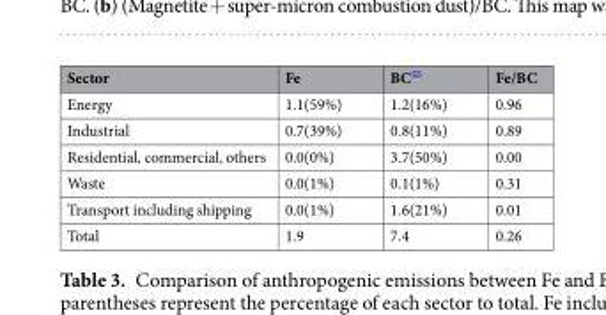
<table><thead><tr><td>Sector</td><td>Fe</td><td>BC<sup>55</sup></td><td>Fe/BC</td></tr></thead><tbody><tr><td>Energy</td><td>1.1(59%)</td><td>1.2(16%)</td><td>0.96</td></tr><tr><td>Industrial</td><td>0.7(39%)</td><td>0.8(11%)</td><td>0.89</td></tr><tr><td>Residential, commercial, others</td><td>0.0(0%)</td><td>3.7(50%)</td><td>0.00</td></tr><tr><td>Waste</td><td>0.0(1%)</td><td>0.1(1%)</td><td>0.31</td></tr><tr><td>Transport including shipping</td><td>0.0(1%)</td><td>1.6(21%)</td><td>0.01</td></tr><tr><td>Total</td><td>1.9</td><td>7.4</td><td>0.26</td></tr></tbody></table>